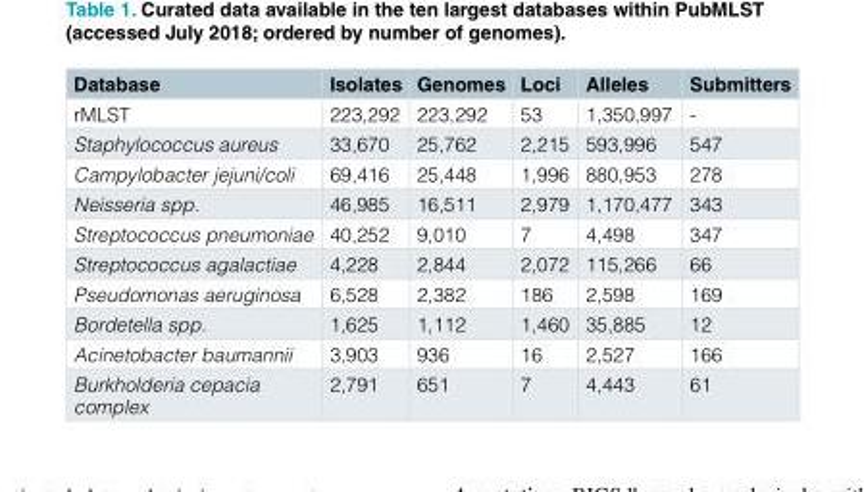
<table><thead><tr><td>Database</td><td>Isolates</td><td>Genomes</td><td>Loci</td><td>Alleles</td><td>Submitters</td></tr></thead><tbody><tr><td>rMLST</td><td>223,292</td><td>223,292</td><td>53</td><td>1,350,997</td><td>-</td></tr><tr><td>Staphylococcus aureus</td><td>33,670</td><td>25,762</td><td>2,215</td><td>593,996</td><td>547</td></tr><tr><td>Campylobacter jejuni/coli</td><td>69,416</td><td>25,448</td><td>1,996</td><td>880,953</td><td>278</td></tr><tr><td>Neisseria spp.</td><td>46,985</td><td>16,511</td><td>2,979</td><td>1,170,477</td><td>343</td></tr><tr><td>Streptococcus pneumoniae</td><td>40,252</td><td>9,010</td><td>7</td><td>4,498</td><td>347</td></tr><tr><td>Streptococcus agalactiae</td><td>4,228</td><td>2,844</td><td>2,072</td><td>115,266</td><td>66</td></tr><tr><td>Pseudomonas aeruginosa</td><td>6,528</td><td>2,382</td><td>186</td><td>2,598</td><td>169</td></tr><tr><td>Bordetella spp.</td><td>1,625</td><td>1,112</td><td>1,460</td><td>35,885</td><td>12</td></tr><tr><td>Acinetobacter baumannii</td><td>3,903</td><td>936</td><td>16</td><td>2,527</td><td>166</td></tr><tr><td>Burkholderia cepacia complex</td><td>2,791</td><td>651</td><td>7</td><td>4,443</td><td>61</td></tr></tbody></table>